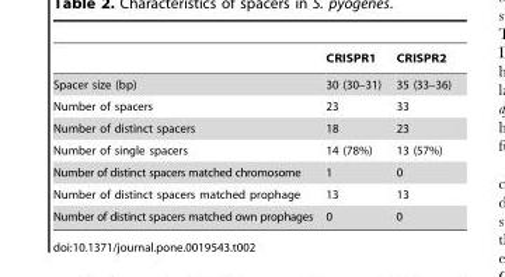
<table><thead><tr><td></td><td>CRISPR1</td><td>CRISPR2</td></tr></thead><tbody><tr><td>Spacer size (bp)</td><td>30 (30–31)</td><td>35 (33–36)</td></tr><tr><td>Number of spacers</td><td>23</td><td>33</td></tr><tr><td>Number of distinct spacers</td><td>18</td><td>23</td></tr><tr><td>Number of single spacers</td><td>14 (78%)</td><td>13 (57%)</td></tr><tr><td>Number of distinct spacers matched chromosome</td><td>1</td><td>0</td></tr><tr><td>Number of distinct spacers matched prophage</td><td>13</td><td>13</td></tr><tr><td>Number of distinct spacers matched own prophages</td><td>0</td><td>0</td></tr></tbody></table>